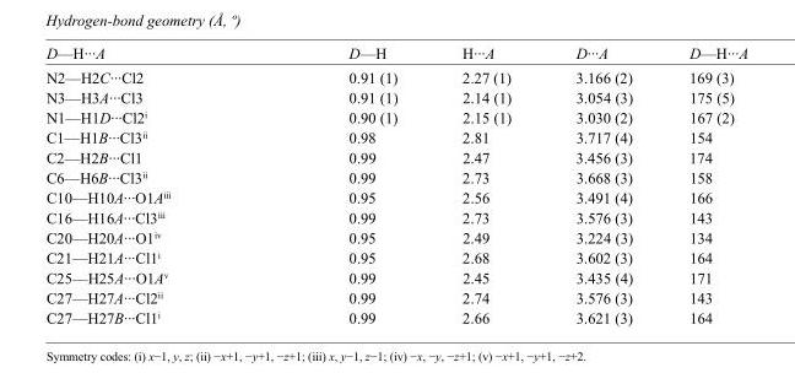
<table><tbody><tr><td>D—H···A</td><td>D—H</td><td>H···A</td><td>D···A</td><td>D—H···A</td></tr><tr><td>N2—H2C···Cl2</td><td>0.91 (1)</td><td>2.27 (1)</td><td>3.166 (2)</td><td>169 (3)</td></tr><tr><td>N3—H3A···Cl3</td><td>0.91 (1)</td><td>2.14 (1)</td><td>3.054 (3)</td><td>175 (5)</td></tr><tr><td>N1—H1D···Cl2<sup>i</sup></td><td>0.90 (1)</td><td>2.15 (1)</td><td>3.030 (2)</td><td>167 (2)</td></tr><tr><td>C1—H1B···Cl3<sup>ii</sup></td><td>0.98</td><td>2.81</td><td>3.717 (4)</td><td>154</td></tr><tr><td>C2—H2B···Cl1</td><td>0.99</td><td>2.47</td><td>3.456 (3)</td><td>174</td></tr><tr><td>C6—H6B···Cl3<sup>ii</sup></td><td>0.99</td><td>2.73</td><td>3.668 (3)</td><td>158</td></tr><tr><td>C10—H10A···O1A<sup>iii</sup></td><td>0.95</td><td>2.56</td><td>3.491 (4)</td><td>166</td></tr><tr><td>C16—H16A···Cl3<sup>iii</sup></td><td>0.99</td><td>2.73</td><td>3.576 (3)</td><td>143</td></tr><tr><td>C20—H20A···O1<sup>iv</sup></td><td>0.95</td><td>2.49</td><td>3.224 (3)</td><td>134</td></tr><tr><td>C21—H21A···Cl1<sup>i</sup></td><td>0.95</td><td>2.68</td><td>3.602 (3)</td><td>164</td></tr><tr><td>C25—H25A···O1A<sup>v</sup></td><td>0.99</td><td>2.45</td><td>3.435 (4)</td><td>171</td></tr><tr><td>C27—H27A···Cl2<sup>ii</sup></td><td>0.99</td><td>2.74</td><td>3.576 (3)</td><td>143</td></tr><tr><td>C27—H27B···Cl1<sup>i</sup></td><td>0.99</td><td>2.66</td><td>3.621 (3)</td><td>164</td></tr></tbody></table>